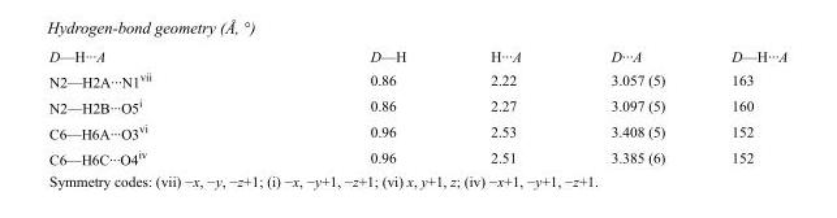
<table><tbody><tr><td>D—H···A</td><td>D—H</td><td>H···A</td><td>D···A</td><td>D—H···A</td></tr><tr><td>N2—H2A···N1<sup>vii</sup></td><td>0.86</td><td>2.22</td><td>3.057 (5)</td><td>163</td></tr><tr><td>N2—H2B···O5<sup>i</sup></td><td>0.86</td><td>2.27</td><td>3.097 (5)</td><td>160</td></tr><tr><td>C6—H6A···O3<sup>vi</sup></td><td>0.96</td><td>2.53</td><td>3.408 (5)</td><td>152</td></tr><tr><td>C6—H6C···O4<sup>iv</sup></td><td>0.96</td><td>2.51</td><td>3.385 (6)</td><td>152</td></tr></tbody></table>